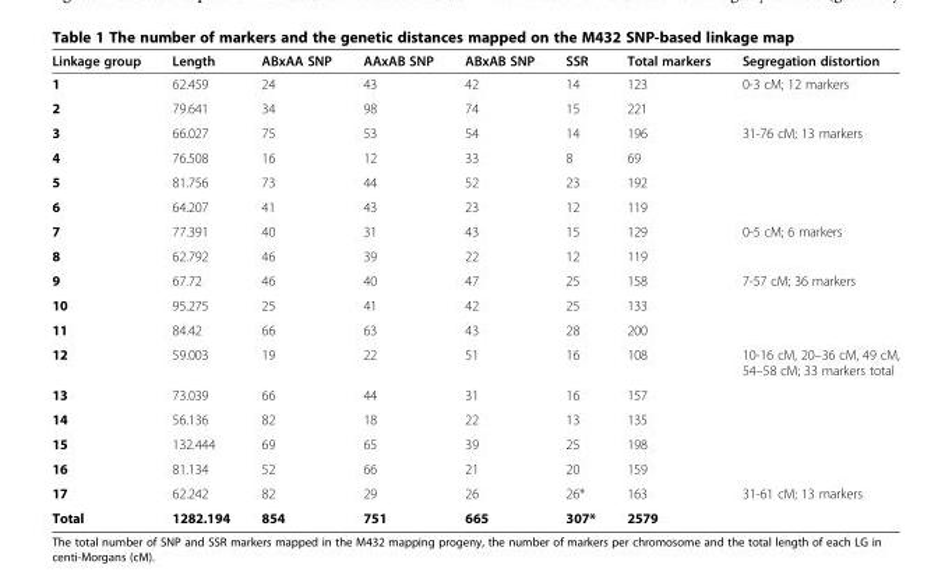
<table><thead><tr><td>Linkage group</td><td>Length</td><td>ABxAA SNP</td><td>AAxAB SNP</td><td>ABxAB SNP</td><td>SSR</td><td>Total markers</td><td>Segregation distortion</td></tr></thead><tbody><tr><td>1</td><td>62.459</td><td>24</td><td>43</td><td>42</td><td>14</td><td>123</td><td>0-3 cM; 12 markers</td></tr><tr><td>2</td><td>79.641</td><td>34</td><td>98</td><td>74</td><td>15</td><td>221</td><td></td></tr><tr><td>3</td><td>66.027</td><td>75</td><td>53</td><td>54</td><td>14</td><td>196</td><td>31-76 cM; 13 markers</td></tr><tr><td>4</td><td>76.508</td><td>16</td><td>12</td><td>33</td><td>8</td><td>69</td><td></td></tr><tr><td>5</td><td>81.756</td><td>73</td><td>44</td><td>52</td><td>23</td><td>192</td><td></td></tr><tr><td>6</td><td>64.207</td><td>41</td><td>43</td><td>23</td><td>12</td><td>119</td><td></td></tr><tr><td>7</td><td>77.391</td><td>40</td><td>31</td><td>43</td><td>15</td><td>129</td><td>0-5 cM; 6 markers</td></tr><tr><td>8</td><td>62.792</td><td>46</td><td>39</td><td>22</td><td>12</td><td>119</td><td></td></tr><tr><td>9</td><td>67.72</td><td>46</td><td>40</td><td>47</td><td>25</td><td>158</td><td>7-57 cM; 36 markers</td></tr><tr><td>10</td><td>95.275</td><td>25</td><td>41</td><td>42</td><td>25</td><td>133</td><td></td></tr><tr><td>11</td><td>84.42</td><td>66</td><td>63</td><td>43</td><td>28</td><td>200</td><td></td></tr><tr><td>12</td><td>59.003</td><td>19</td><td>22</td><td>51</td><td>16</td><td>108</td><td>10-16 cM, 20–36 cM, 49 cM, 54–58 cM; 33 markers total</td></tr><tr><td>13</td><td>73.039</td><td>66</td><td>44</td><td>31</td><td>16</td><td>157</td><td></td></tr><tr><td>14</td><td>56.136</td><td>82</td><td>18</td><td>22</td><td>13</td><td>135</td><td></td></tr><tr><td>15</td><td>132.444</td><td>69</td><td>65</td><td>39</td><td>25</td><td>198</td><td></td></tr><tr><td>16</td><td>81.134</td><td>52</td><td>66</td><td>21</td><td>20</td><td>159</td><td></td></tr><tr><td>17</td><td>62.242</td><td>82</td><td>29</td><td>26</td><td>26*</td><td>163</td><td>31-61 cM; 13 markers</td></tr><tr><td>Total</td><td>1282.194</td><td>854</td><td>751</td><td>665</td><td>307*</td><td>2579</td><td></td></tr></tbody></table>